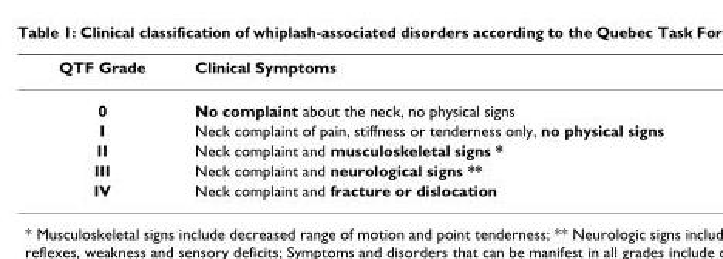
<table><thead><tr><td>QTF Grade</td><td>Clinical Symptoms</td></tr></thead><tbody><tr><td>0</td><td>No complaint about the neck, no physical signs</td></tr><tr><td>I</td><td>Neck complaint of pain, stiffness or tenderness only, no physical signs</td></tr><tr><td>II</td><td>Neck complaint and musculoskeletal signs *</td></tr><tr><td>III</td><td>Neck complaint and neurological signs **</td></tr><tr><td>IV</td><td>Neck complaint and fracture or dislocation</td></tr></tbody></table>